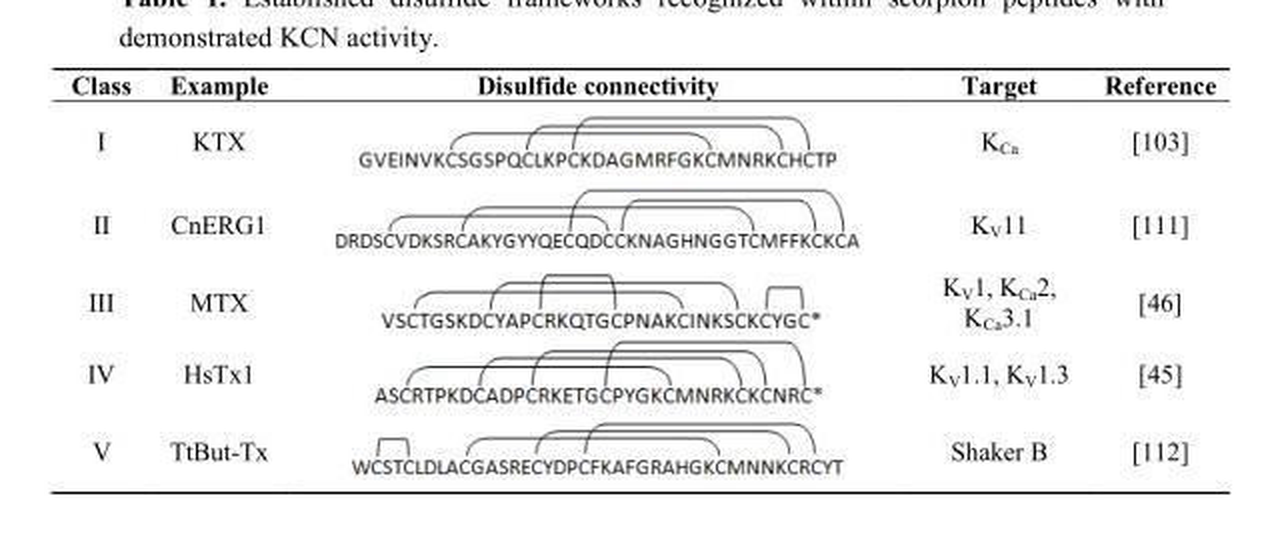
<table><thead><tr><td>Class</td><td>Example</td><td>Disulfide connectivity</td><td>Target</td><td>Reference</td></tr></thead><tbody><tr><td>I</td><td>KTX</td><td></td><td>K<sub>Ca</sub></td><td>[103]</td></tr><tr><td>II</td><td>CnERG1</td><td></td><td>K<sub>V</sub>11</td><td>[111]</td></tr><tr><td>III</td><td>MTX</td><td></td><td>K<sub>V</sub>1, K<sub>Ca</sub>2, K<sub>Ca</sub>3.1</td><td>[46]</td></tr><tr><td>IV</td><td>HsTx1</td><td></td><td>K<sub>V</sub>1.1, K<sub>V</sub>1.3</td><td>[45]</td></tr><tr><td>V</td><td>TtBut-Tx</td><td></td><td>Shaker B</td><td>[112]</td></tr></tbody></table>